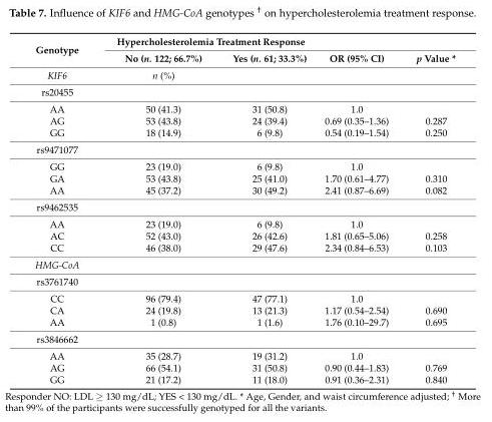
<table><thead><tr><td rowspan="2">Genotype</td><td colspan="2">Hypercholesterolemia Treatment Response</td><td rowspan="2">OR (95% CI)</td><td rowspan="2">p Value *</td></tr><tr><td>No (n. 122; 66.7%)</td><td>Yes (n. 61; 33.3%)</td></tr></thead><tbody><tr><td>KIF6</td><td>n (%)</td><td></td><td colspan="2"></td></tr><tr><td colspan="5">rs20455</td></tr><tr><td>AA</td><td>50 (41.3)</td><td>31 (50.8)</td><td>1.0</td><td></td></tr><tr><td>AG</td><td>53 (43.8)</td><td>24 (39.4)</td><td>0.69 (0.35–1.36)</td><td>0.287</td></tr><tr><td>GG</td><td>18 (14.9)</td><td>6 (9.8)</td><td>0.54 (0.19–1.54)</td><td>0.250</td></tr><tr><td colspan="5">rs9471077</td></tr><tr><td>GG</td><td>23 (19.0)</td><td>6 (9.8)</td><td>1.0</td><td></td></tr><tr><td>GA</td><td>53 (43.8)</td><td>25 (41.0)</td><td>1.70 (0.61–4.77)</td><td>0.310</td></tr><tr><td>AA</td><td>45 (37.2)</td><td>30 (49.2)</td><td>2.41 (0.87–6.69)</td><td>0.082</td></tr><tr><td colspan="5">rs9462535</td></tr><tr><td>AA</td><td>23 (19.0)</td><td>6 (9.8)</td><td>1.0</td><td></td></tr><tr><td>AC</td><td>52 (43.0)</td><td>26 (42.6)</td><td>1.81 (0.65–5.06)</td><td>0.258</td></tr><tr><td>CC</td><td>46 (38.0)</td><td>29 (47.6)</td><td>2.34 (0.84–6.53)</td><td>0.103</td></tr><tr><td colspan="5">HMG-CoA</td></tr><tr><td colspan="5">rs3761740</td></tr><tr><td>CC</td><td>96 (79.4)</td><td>47 (77.1)</td><td>1.0</td><td></td></tr><tr><td>CA</td><td>24 (19.8)</td><td>13 (21.3)</td><td>1.17 (0.54–2.54)</td><td>0.690</td></tr><tr><td>AA</td><td>1 (0.8)</td><td>1 (1.6)</td><td>1.76 (0.10–29.7)</td><td>0.695</td></tr><tr><td colspan="5">rs3846662</td></tr><tr><td>AA</td><td>35 (28.7)</td><td>19 (31.2)</td><td>1.0</td><td></td></tr><tr><td>AG</td><td>66 (54.1)</td><td>31 (50.8)</td><td>0.90 (0.44–1.83)</td><td>0.769</td></tr><tr><td>GG</td><td>21 (17.2)</td><td>11 (18.0)</td><td>0.91 (0.36–2.31)</td><td>0.840</td></tr></tbody></table>